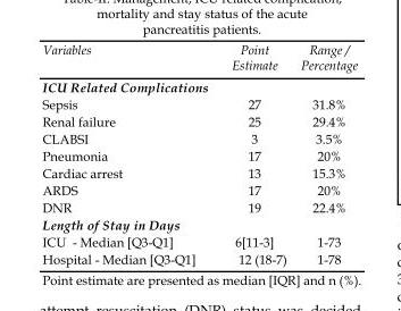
<table><thead><tr><td>Variables</td><td>Point Estimate</td><td>Range / Percentage</td></tr></thead><tbody><tr><td colspan="3">ICU Related Complications</td></tr><tr><td>Sepsis</td><td>27</td><td>31.8%</td></tr><tr><td>Renal failure</td><td>25</td><td>29.4%</td></tr><tr><td>CLABSI</td><td>3</td><td>3.5%</td></tr><tr><td>Pneumonia</td><td>17</td><td>20%</td></tr><tr><td>Cardiac arrest</td><td>13</td><td>15.3%</td></tr><tr><td>ARDS</td><td>17</td><td>20%</td></tr><tr><td>DNR</td><td>19</td><td>22.4%</td></tr><tr><td colspan="3">Length of Stay in Days</td></tr><tr><td>ICU - Median [Q3-Q1]</td><td>6[11-3]</td><td>1-73</td></tr><tr><td>Hospital - Median [Q3-Q1]</td><td>12 (18-7)</td><td>1-78</td></tr></tbody></table>